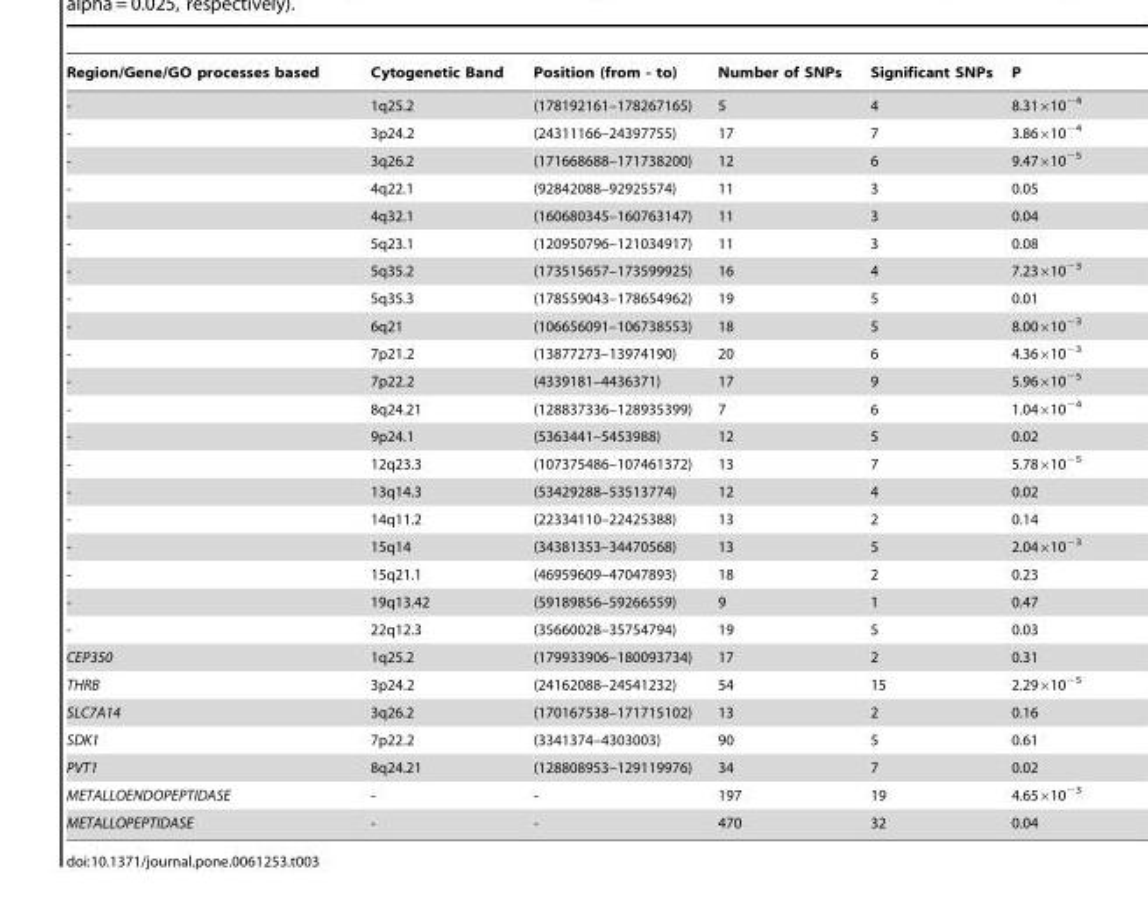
<table><thead><tr><td>Region/Gene/GO processes based</td><td>Cytogenetic Band</td><td>Position (from - to)</td><td>Number of SNPs</td><td>Significant SNPs</td><td>P</td></tr></thead><tbody><tr><td>-</td><td>1q25.2</td><td>(178192161–178267165)</td><td>5</td><td>4</td><td>8.31×10<sup>−4</sup></td></tr><tr><td>-</td><td>3p24.2</td><td>(24311166–24397755)</td><td>17</td><td>7</td><td>3.86×10<sup>−4</sup></td></tr><tr><td>-</td><td>3q26.2</td><td>(171668688–171738200)</td><td>12</td><td>6</td><td>9.47×10<sup>−5</sup></td></tr><tr><td>-</td><td>4q22.1</td><td>(92842088–92925574)</td><td>11</td><td>3</td><td>0.05</td></tr><tr><td>-</td><td>4q32.1</td><td>(160680345–160763147)</td><td>11</td><td>3</td><td>0.04</td></tr><tr><td>-</td><td>5q23.1</td><td>(120950796–121034917)</td><td>11</td><td>3</td><td>0.08</td></tr><tr><td>-</td><td>5q35.2</td><td>(173515657–173599925)</td><td>16</td><td>4</td><td>7.23×10<sup>−3</sup></td></tr><tr><td>-</td><td>5q35.3</td><td>(178559043–178654962)</td><td>19</td><td>5</td><td>0.01</td></tr><tr><td>-</td><td>6q21</td><td>(106656091–106738553)</td><td>18</td><td>5</td><td>8.00×10<sup>−3</sup></td></tr><tr><td>-</td><td>7p21.2</td><td>(13877273–13974190)</td><td>20</td><td>6</td><td>4.36×10<sup>−3</sup></td></tr><tr><td>-</td><td>7p22.2</td><td>(4339181–4436371)</td><td>17</td><td>9</td><td>5.96×10<sup>−5</sup></td></tr><tr><td>-</td><td>8q24.21</td><td>(128837336–128935399)</td><td>7</td><td>6</td><td>1.04×10<sup>−4</sup></td></tr><tr><td>-</td><td>9p24.1</td><td>(5363441–5453988)</td><td>12</td><td>5</td><td>0.02</td></tr><tr><td>-</td><td>12q23.3</td><td>(107375486–107461372)</td><td>13</td><td>7</td><td>5.78×10<sup>−5</sup></td></tr><tr><td>-</td><td>13q14.3</td><td>(53429288–53513774)</td><td>12</td><td>4</td><td>0.02</td></tr><tr><td>-</td><td>14q11.2</td><td>(22334110–22425388)</td><td>13</td><td>2</td><td>0.14</td></tr><tr><td>-</td><td>15q14</td><td>(34381353–34470568)</td><td>13</td><td>5</td><td>2.04×10<sup>−3</sup></td></tr><tr><td>-</td><td>15q21.1</td><td>(46959609–47047893)</td><td>18</td><td>2</td><td>0.23</td></tr><tr><td>-</td><td>19q13.42</td><td>(59189856–59266559)</td><td>9</td><td>1</td><td>0.47</td></tr><tr><td>-</td><td>22q12.3</td><td>(35660028–35754794)</td><td>19</td><td>5</td><td>0.03</td></tr><tr><td>CEP350</td><td>1q25.2</td><td>(179933906–180093734)</td><td>17</td><td>2</td><td>0.31</td></tr><tr><td>THRB</td><td>3p24.2</td><td>(24162088–24541232)</td><td>54</td><td>15</td><td>2.29×10<sup>−5</sup></td></tr><tr><td>SLC7A14</td><td>3q26.2</td><td>(170167538–171715102)</td><td>13</td><td>2</td><td>0.16</td></tr><tr><td>SDK1</td><td>7p22.2</td><td>(3341374–4303003)</td><td>90</td><td>5</td><td>0.61</td></tr><tr><td>PVT1</td><td>8q24.21</td><td>(128808953–129119976)</td><td>34</td><td>7</td><td>0.02</td></tr><tr><td>METALLOENDOPEPTIDASE</td><td>-</td><td>-</td><td>197</td><td>19</td><td>4.65×10<sup>−3</sup></td></tr><tr><td>METALLOPEPTIDASE</td><td>-</td><td>-</td><td>470</td><td>32</td><td>0.04</td></tr></tbody></table>